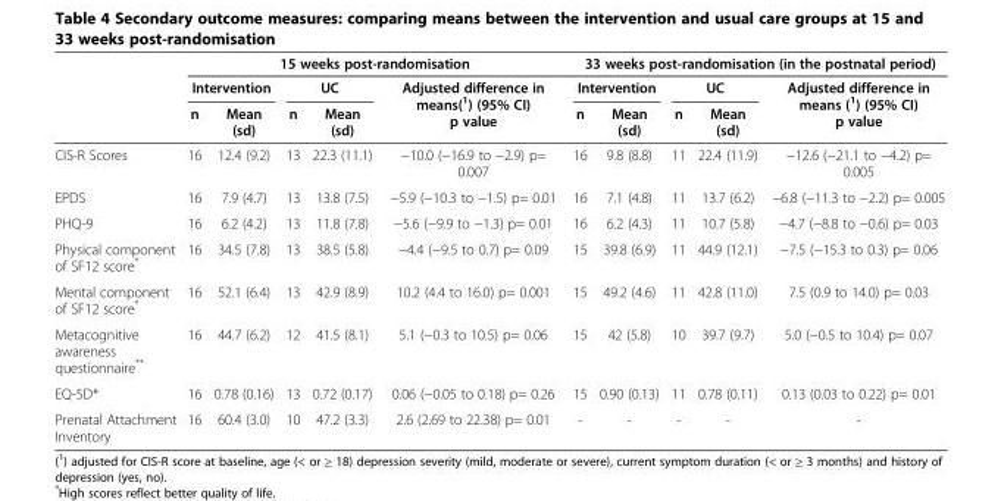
<table><thead><tr><td rowspan="3"></td><td colspan="5">15 weeks post-randomisation</td><td colspan="5">33 weeks post-randomisation (in the postnatal period)</td></tr><tr><td colspan="2">Intervention</td><td colspan="2">UC</td><td rowspan="2">Adjusted difference in means(<sup>1</sup>) (95% CI) p value</td><td colspan="2">Intervention</td><td colspan="2">UC</td><td rowspan="2">Adjusted difference in means (<sup>1</sup>) (95% CI) p value</td></tr><tr><td>n</td><td>Mean (sd)</td><td>n</td><td>Mean (sd)</td><td>n</td><td>Mean (sd)</td><td>n</td><td>Mean (sd)</td></tr></thead><tbody><tr><td>CIS-R Scores</td><td>16</td><td>12.4 (9.2)</td><td>13</td><td>22.3 (11.1)</td><td>−10.0 (−16.9 to −2.9) p= 0.007</td><td>16</td><td>9.8 (8.8)</td><td>11</td><td>22.4 (11.9)</td><td>−12.6 (−21.1 to −4.2) p= 0.005</td></tr><tr><td>EPDS</td><td>16</td><td>7.9 (4.7)</td><td>13</td><td>13.8 (7.5)</td><td>−5.9 (−10.3 to −1.5) p= 0.01</td><td>16</td><td>7.1 (4.8)</td><td>11</td><td>13.7 (6.2)</td><td>−6.8 (−11.3 to −2.2) p= 0.005</td></tr><tr><td>PHQ-9</td><td>16</td><td>6.2 (4.2)</td><td>13</td><td>11.8 (7.8)</td><td>−5.6 (−9.9 to −1.3) p= 0.01</td><td>16</td><td>6.2 (4.3)</td><td>11</td><td>10.7 (5.8)</td><td>−4.7 (−8.8 to −0.6) p= 0.03</td></tr><tr><td>Physical component of SF12 score*</td><td>16</td><td>34.5 (7.8)</td><td>13</td><td>38.5 (5.8)</td><td>−4.4 (−9.5 to 0.7) p= 0.09</td><td>15</td><td>39.8 (6.9)</td><td>11</td><td>44.9 (12.1)</td><td>−7.5 (−15.3 to 0.3) p= 0.06</td></tr><tr><td>Mental component of SF12 score*</td><td>16</td><td>52.1 (6.4)</td><td>13</td><td>42.9 (8.9)</td><td>10.2 (4.4 to 16.0) p= 0.001</td><td>15</td><td>49.2 (4.6)</td><td>11</td><td>42.8 (11.0)</td><td>7.5 (0.9 to 14.0) p= 0.03</td></tr><tr><td>Metacognitive awareness questionnaire**</td><td>16</td><td>44.7 (6.2)</td><td>12</td><td>41.5 (8.1)</td><td>5.1 (−0.3 to 10.5) p= 0.06</td><td>15</td><td>42 (5.8)</td><td>10</td><td>39.7 (9.7)</td><td>5.0 (−0.5 to 10.4) p= 0.07</td></tr><tr><td>EQ-5D*</td><td>16</td><td>0.78 (0.16)</td><td>13</td><td>0.72 (0.17)</td><td>0.06 (−0.05 to 0.18) p= 0.26</td><td>15</td><td>0.90 (0.13)</td><td>11</td><td>0.78 (0.11)</td><td>0.13 (0.03 to 0.22) p= 0.01</td></tr><tr><td>Prenatal Attachment Inventory</td><td>16</td><td>60.4 (3.0)</td><td>10</td><td>47.2 (3.3)</td><td>2.6 (2.69 to 22.38) p= 0.01</td><td>-</td><td>-</td><td>-</td><td>-</td><td>-</td></tr></tbody></table>